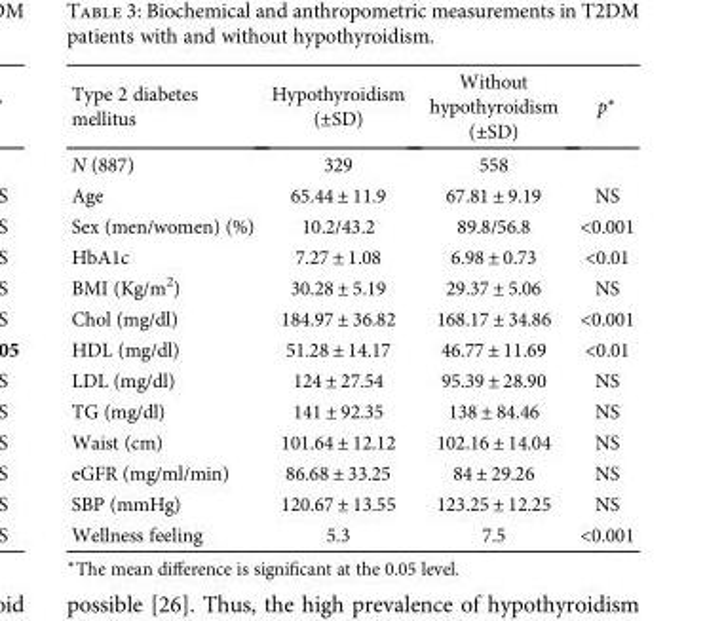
<table><thead><tr><td>Type 2 diabetes mellitus</td><td>Hypothyroidism (±SD)</td><td>Without hypothyroidism (±SD)</td><td>p∗</td></tr></thead><tbody><tr><td>N (887)</td><td>329</td><td>558</td><td></td></tr><tr><td>Age</td><td>65.44 ± 11.9</td><td>67.81 ± 9.19</td><td>NS</td></tr><tr><td>Sex (men/women) (%)</td><td>10.2/43.2</td><td>89.8/56.8</td><td>&lt;0.001</td></tr><tr><td>HbA1c</td><td>7.27 ± 1.08</td><td>6.98 ± 0.73</td><td>&lt;0.01</td></tr><tr><td>BMI (Kg/m<sup>2</sup>)</td><td>30.28 ± 5.19</td><td>29.37 ± 5.06</td><td>NS</td></tr><tr><td>Chol (mg/dl)</td><td>184.97 ± 36.82</td><td>168.17 ± 34.86</td><td>&lt;0.001</td></tr><tr><td>HDL (mg/dl)</td><td>51.28 ± 14.17</td><td>46.77 ± 11.69</td><td>&lt;0.01</td></tr><tr><td>LDL (mg/dl)</td><td>124 ± 27.54</td><td>95.39 ± 28.90</td><td>NS</td></tr><tr><td>TG (mg/dl)</td><td>141 ± 92.35</td><td>138 ± 84.46</td><td>NS</td></tr><tr><td>Waist (cm)</td><td>101.64 ± 12.12</td><td>102.16 ± 14.04</td><td>NS</td></tr><tr><td>eGFR (mg/ml/min)</td><td>86.68 ± 33.25</td><td>84 ± 29.26</td><td>NS</td></tr><tr><td>SBP (mmHg)</td><td>120.67 ± 13.55</td><td>123.25 ± 12.25</td><td>NS</td></tr><tr><td>Wellness feeling</td><td>5.3</td><td>7.5</td><td>&lt;0.001</td></tr></tbody></table>